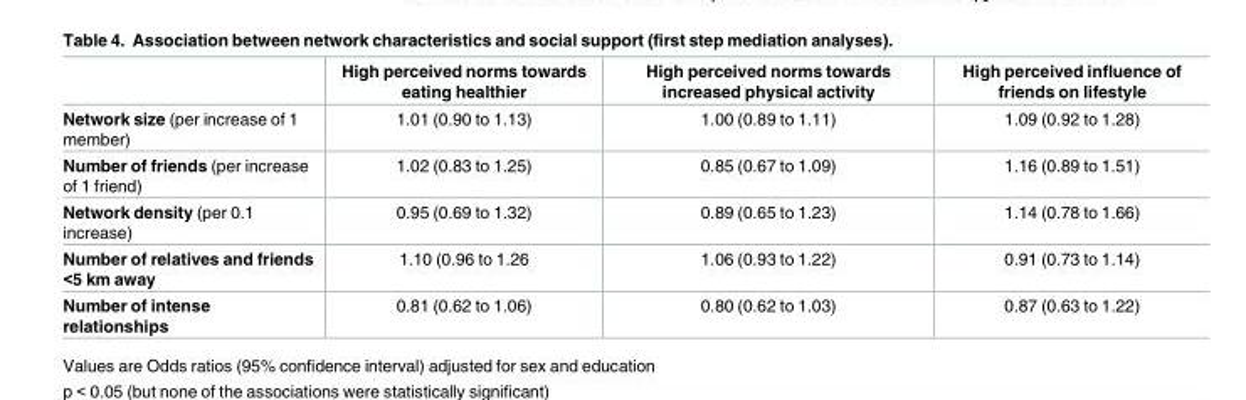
<table><thead><tr><td></td><td>High perceived norms towards eating healthier</td><td>High perceived norms towards increased physical activity</td><td>High perceived influence of friends on lifestyle</td></tr></thead><tbody><tr><td>Network size (per increase of 1 member)</td><td>1.01 (0.90 to 1.13)</td><td>1.00 (0.89 to 1.11)</td><td>1.09 (0.92 to 1.28)</td></tr><tr><td>Number of friends (per increase of 1 friend)</td><td>1.02 (0.83 to 1.25)</td><td>0.85 (0.67 to 1.09)</td><td>1.16 (0.89 to 1.51)</td></tr><tr><td>Network density (per 0.1 increase)</td><td>0.95 (0.69 to 1.32)</td><td>0.89 (0.65 to 1.23)</td><td>1.14 (0.78 to 1.66)</td></tr><tr><td>Number of relatives and friends &lt;5 km away</td><td>1.10 (0.96 to 1.26</td><td>1.06 (0.93 to 1.22)</td><td>0.91 (0.73 to 1.14)</td></tr><tr><td>Number of intense relationships</td><td>0.81 (0.62 to 1.06)</td><td>0.80 (0.62 to 1.03)</td><td>0.87 (0.63 to 1.22)</td></tr></tbody></table>